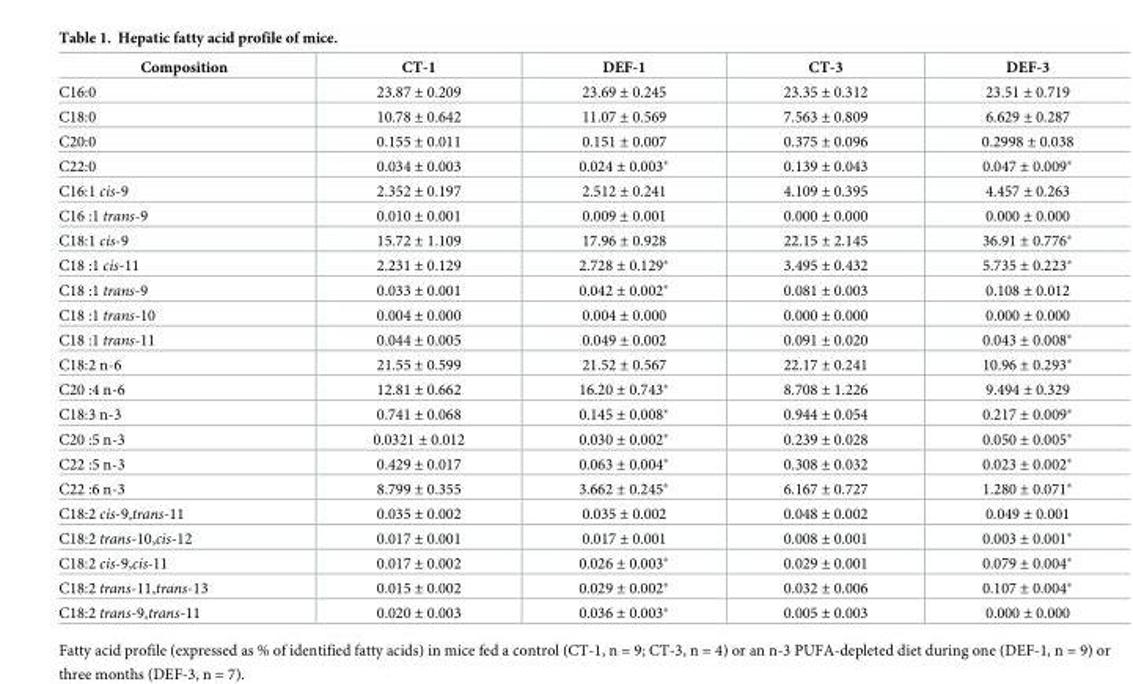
<table><thead><tr><td>Composition</td><td>CT-1</td><td>DEF-1</td><td>CT-3</td><td>DEF-3</td></tr></thead><tbody><tr><td>C16:0</td><td>23.87 ± 0.209</td><td>23.69 ± 0.245</td><td>23.35 ± 0.312</td><td>23.51 ± 0.719</td></tr><tr><td>C18:0</td><td>10.78 ± 0.642</td><td>11.07 ± 0.569</td><td>7.563 ± 0.809</td><td>6.629 ± 0.287</td></tr><tr><td>C20:0</td><td>0.155 ± 0.011</td><td>0.151 ± 0.007</td><td>0.375 ± 0.096</td><td>0.2998 ± 0.038</td></tr><tr><td>C22:0</td><td>0.034 ± 0.003</td><td>0.024 ± 0.003*</td><td>0.139 ± 0.043</td><td>0.047 ± 0.009*</td></tr><tr><td>C16:1 cis-9</td><td>2.352 ± 0.197</td><td>2.512 ± 0.241</td><td>4.109 ± 0.395</td><td>4.457 ± 0.263</td></tr><tr><td>C16 :1 trans-9</td><td>0.010 ± 0.001</td><td>0.009 ± 0.001</td><td>0.000 ± 0.000</td><td>0.000 ± 0.000</td></tr><tr><td>C18:1 cis-9</td><td>15.72 ± 1.109</td><td>17.96 ± 0.928</td><td>22.15 ± 2.145</td><td>36.91 ± 0.776*</td></tr><tr><td>C18 :1 cis-11</td><td>2.231 ± 0.129</td><td>2.728 ± 0.129*</td><td>3.495 ± 0.432</td><td>5.735 ± 0.223*</td></tr><tr><td>C18 :1 trans-9</td><td>0.033 ± 0.001</td><td>0.042 ± 0.002*</td><td>0.081 ± 0.003</td><td>0.108 ± 0.012</td></tr><tr><td>C18 :1 trans-10</td><td>0.004 ± 0.000</td><td>0.004 ± 0.000</td><td>0.000 ± 0.000</td><td>0.000 ± 0.000</td></tr><tr><td>C18 :1 trans-11</td><td>0.044 ± 0.005</td><td>0.049 ± 0.002</td><td>0.091 ± 0.020</td><td>0.043 ± 0.008*</td></tr><tr><td>C18:2 n-6</td><td>21.55 ± 0.599</td><td>21.52 ± 0.567</td><td>22.17 ± 0.241</td><td>10.96 ± 0.293*</td></tr><tr><td>C20 :4 n-6</td><td>12.81 ± 0.662</td><td>16.20 ± 0.743*</td><td>8.708 ± 1.226</td><td>9.494 ± 0.329</td></tr><tr><td>C18:3 n-3</td><td>0.741 ± 0.068</td><td>0.145 ± 0.008*</td><td>0.944 ± 0.054</td><td>0.217 ± 0.009*</td></tr><tr><td>C20 :5 n-3</td><td>0.0321 ± 0.012</td><td>0.030 ± 0.002*</td><td>0.239 ± 0.028</td><td>0.050 ± 0.005*</td></tr><tr><td>C22 :5 n-3</td><td>0.429 ± 0.017</td><td>0.063 ± 0.004*</td><td>0.308 ± 0.032</td><td>0.023 ± 0.002*</td></tr><tr><td>C22 :6 n-3</td><td>8.799 ± 0.355</td><td>3.662 ± 0.245*</td><td>6.167 ± 0.727</td><td>1.280 ± 0.071*</td></tr><tr><td>C18:2 cis-9,trans-11</td><td>0.035 ± 0.002</td><td>0.035 ± 0.002</td><td>0.048 ± 0.002</td><td>0.049 ± 0.001</td></tr><tr><td>C18:2 trans-10,cis-12</td><td>0.017 ± 0.001</td><td>0.017 ± 0.001</td><td>0.008 ± 0.001</td><td>0.003 ± 0.001*</td></tr><tr><td>C18:2 cis-9,cis-11</td><td>0.017 ± 0.002</td><td>0.026 ± 0.003*</td><td>0.029 ± 0.001</td><td>0.079 ± 0.004*</td></tr><tr><td>C18:2 trans-11,trans-13</td><td>0.015 ± 0.002</td><td>0.029 ± 0.002*</td><td>0.032 ± 0.006</td><td>0.107 ± 0.004*</td></tr><tr><td>C18:2 trans-9,trans-11</td><td>0.020 ± 0.003</td><td>0.036 ± 0.003*</td><td>0.005 ± 0.003</td><td>0.000 ± 0.000</td></tr></tbody></table>